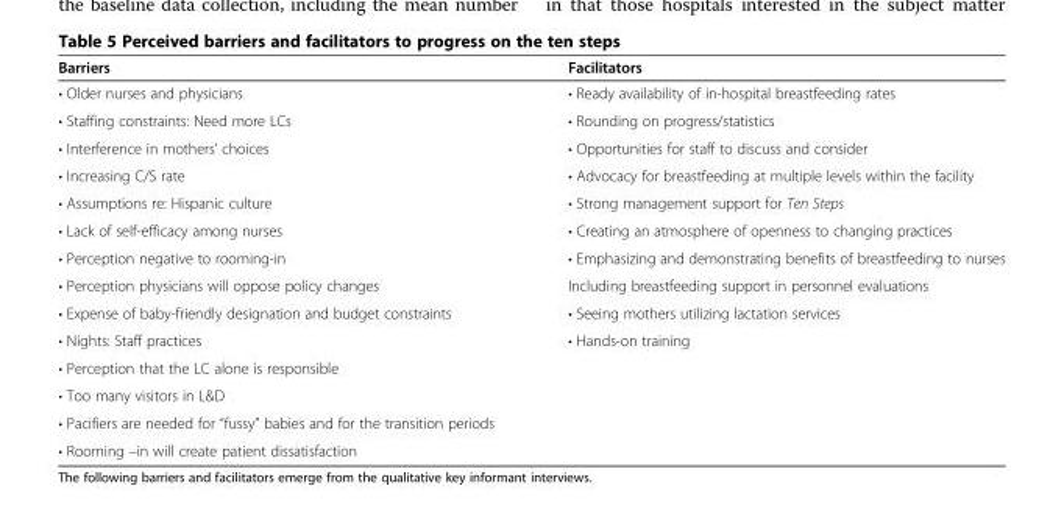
<table><thead><tr><td>Barriers</td><td>Facilitators</td></tr></thead><tbody><tr><td>• Older nurses and physicians</td><td>• Ready availability of in-hospital breastfeeding rates</td></tr><tr><td>• Staffing constraints: Need more LCs</td><td>• Rounding on progress/statistics</td></tr><tr><td>• Interference in mothers’ choices</td><td>• Opportunities for staff to discuss and consider</td></tr><tr><td>• Increasing C/S rate</td><td>• Advocacy for breastfeeding at multiple levels within the facility</td></tr><tr><td>• Assumptions re: Hispanic culture</td><td>• Strong management support for Ten Steps</td></tr><tr><td>• Lack of self-efficacy among nurses</td><td>• Creating an atmosphere of openness to changing practices</td></tr><tr><td>• Perception negative to rooming-in</td><td>• Emphasizing and demonstrating benefits of breastfeeding to nurses</td></tr><tr><td>• Perception physicians will oppose policy changes</td><td>Including breastfeeding support in personnel evaluations</td></tr><tr><td>• Expense of baby-friendly designation and budget constraints</td><td>• Seeing mothers utilizing lactation services</td></tr><tr><td>• Nights: Staff practices</td><td>• Hands-on training</td></tr><tr><td>• Perception that the LC alone is responsible</td><td rowspan="4"></td></tr><tr><td>• Too many visitors in L&amp;D</td></tr><tr><td>• Pacifiers are needed for “fussy” babies and for the transition periods</td></tr><tr><td>• Rooming –in will create patient dissatisfaction</td></tr></tbody></table>